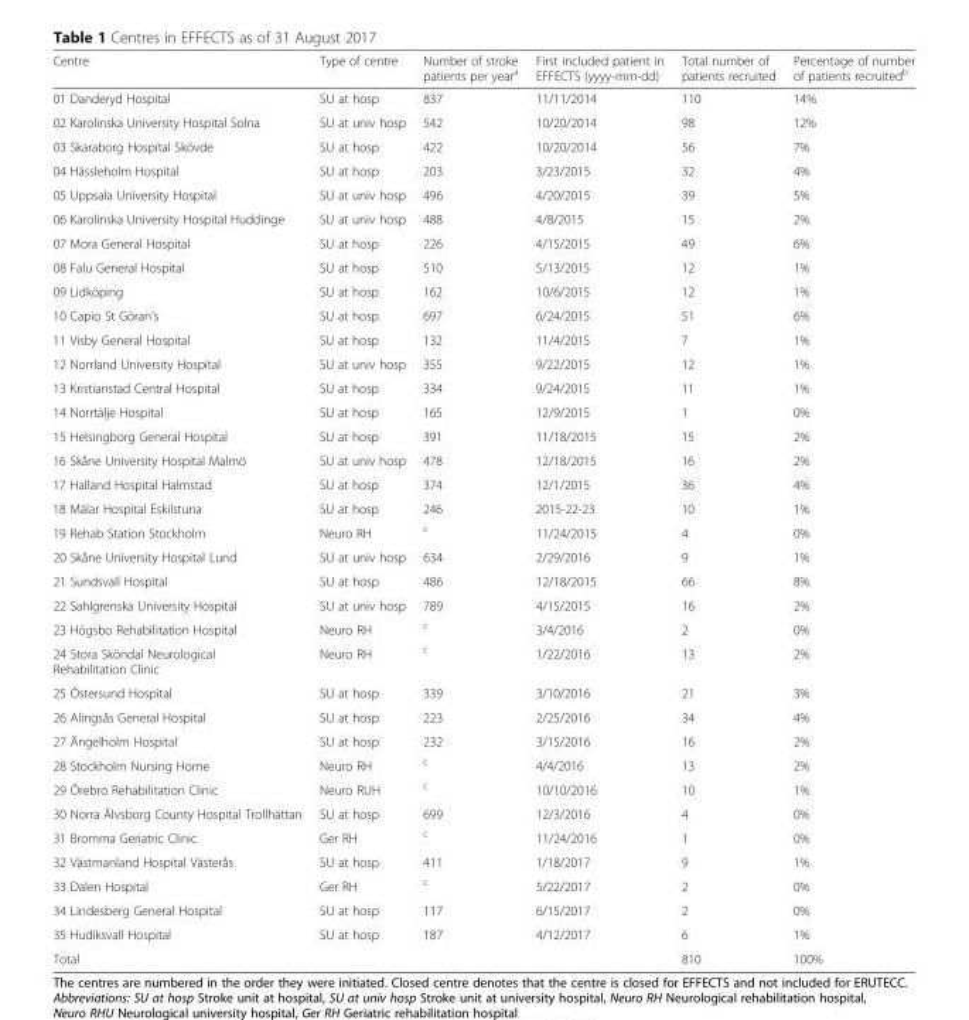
<table><thead><tr><td>Centre</td><td>Type of centre</td><td>Number of stroke patients per year<sup>a</sup></td><td>First included patient in EFFECTS (yyyy-mm-dd)</td><td>Total number of patients recruited</td><td>Percentage of number of patients recruited<sup>b</sup></td></tr></thead><tbody><tr><td>01 Danderyd Hospital</td><td>SU at hosp</td><td>837</td><td>11/11/2014</td><td>110</td><td>14%</td></tr><tr><td>02 Karolinska University Hospital Solna</td><td>SU at univ hosp</td><td>542</td><td>10/20/2014</td><td>98</td><td>12%</td></tr><tr><td>03 Skaraborg Hospital Skövde</td><td>SU at hosp</td><td>422</td><td>10/20/2014</td><td>56</td><td>7%</td></tr><tr><td>04 Hässleholm Hospital</td><td>SU at hosp</td><td>203</td><td>3/23/2015</td><td>32</td><td>4%</td></tr><tr><td>05 Uppsala University Hospital</td><td>SU at univ hosp</td><td>496</td><td>4/20/2015</td><td>39</td><td>5%</td></tr><tr><td>06 Karolinska University Hospital Huddinge</td><td>SU at univ hosp</td><td>488</td><td>4/8/2015</td><td>15</td><td>2%</td></tr><tr><td>07 Mora General Hospital</td><td>SU at hosp</td><td>226</td><td>4/15/2015</td><td>49</td><td>6%</td></tr><tr><td>08 Falu General Hospital</td><td>SU at hosp</td><td>510</td><td>5/13/2015</td><td>12</td><td>1%</td></tr><tr><td>09 Lidköping</td><td>SU at hosp</td><td>162</td><td>10/6/2015</td><td>12</td><td>1%</td></tr><tr><td>10 Capio St Göran’s</td><td>SU at hosp</td><td>697</td><td>6/24/2015</td><td>51</td><td>6%</td></tr><tr><td>11 Visby General Hospital</td><td>SU at hosp</td><td>132</td><td>11/4/2015</td><td>7</td><td>1%</td></tr><tr><td>12 Norrland University Hospital</td><td>SU at univ hosp</td><td>355</td><td>9/22/2015</td><td>12</td><td>1%</td></tr><tr><td>13 Kristianstad Central Hospital</td><td>SU at hosp</td><td>334</td><td>9/24/2015</td><td>11</td><td>1%</td></tr><tr><td>14 Norrtälje Hospital</td><td>SU at hosp</td><td>165</td><td>12/9/2015</td><td>1</td><td>0%</td></tr><tr><td>15 Helsingborg General Hospital</td><td>SU at hosp</td><td>391</td><td>11/18/2015</td><td>15</td><td>2%</td></tr><tr><td>16 Skåne University Hospital Malmö</td><td>SU at univ hosp</td><td>478</td><td>12/18/2015</td><td>16</td><td>2%</td></tr><tr><td>17 Halland Hospital Halmstad</td><td>SU at hosp</td><td>374</td><td>12/1/2015</td><td>36</td><td>4%</td></tr><tr><td>18 Mälar Hospital Eskilstuna</td><td>SU at hosp</td><td>246</td><td>2015-22-23</td><td>10</td><td>1%</td></tr><tr><td>19 Rehab Station Stockholm</td><td>Neuro RH</td><td><sup>c</sup></td><td>11/24/2015</td><td>4</td><td>0%</td></tr><tr><td>20 Skåne University Hospital Lund</td><td>SU at univ hosp</td><td>634</td><td>2/29/2016</td><td>9</td><td>1%</td></tr><tr><td>21 Sundsvall Hospital</td><td>SU at hosp</td><td>486</td><td>12/18/2015</td><td>66</td><td>8%</td></tr><tr><td>22 Sahlgrenska University Hospital</td><td>SU at univ hosp</td><td>789</td><td>4/15/2015</td><td>16</td><td>2%</td></tr><tr><td>23 Högsbo Rehabilitation Hospital</td><td>Neuro RH</td><td><sup>c</sup></td><td>3/4/2016</td><td>2</td><td>0%</td></tr><tr><td>24 Stora Sköndal Neurological Rehabilitation Clinic</td><td>Neuro RH</td><td><sup>c</sup></td><td>1/22/2016</td><td>13</td><td>2%</td></tr><tr><td>25 Östersund Hospital</td><td>SU at hosp</td><td>339</td><td>3/10/2016</td><td>21</td><td>3%</td></tr><tr><td>26 Alingsås General Hospital</td><td>SU at hosp</td><td>223</td><td>2/25/2016</td><td>34</td><td>4%</td></tr><tr><td>27 Ängelholm Hospital</td><td>SU at hosp</td><td>232</td><td>3/15/2016</td><td>16</td><td>2%</td></tr><tr><td>28 Stockholm Nursing Home</td><td>Neuro RH</td><td><sup>c</sup></td><td>4/4/2016</td><td>13</td><td>2%</td></tr><tr><td>29 Örebro Rehabilitation Clinic</td><td>Neuro RUH</td><td><sup>c</sup></td><td>10/10/2016</td><td>10</td><td>1%</td></tr><tr><td>30 Norra Älvsborg County Hospital Trollhättan</td><td>SU at hosp</td><td>699</td><td>12/3/2016</td><td>4</td><td>0%</td></tr><tr><td>31 Bromma Geriatric Clinic</td><td>Ger RH</td><td><sup>c</sup></td><td>11/24/2016</td><td>1</td><td>0%</td></tr><tr><td>32 Västmanland Hospital Västerås</td><td>SU at hosp</td><td>411</td><td>1/18/2017</td><td>9</td><td>1%</td></tr><tr><td>33 Dalen Hospital</td><td>Ger RH</td><td><sup>c</sup></td><td>5/22/2017</td><td>2</td><td>0%</td></tr><tr><td>34 Lindesberg General Hospital</td><td>SU at hosp</td><td>117</td><td>6/15/2017</td><td>2</td><td>0%</td></tr><tr><td>35 Hudiksvall Hospital</td><td>SU at hosp</td><td>187</td><td>4/12/2017</td><td>6</td><td>1%</td></tr><tr><td>Total</td><td></td><td></td><td></td><td>810</td><td>100%</td></tr></tbody></table>